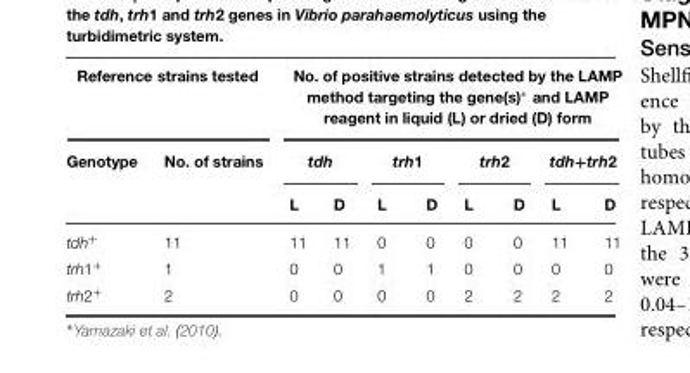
<table><thead><tr><td colspan="2">Reference strains tested</td><td colspan="8">No. of positive strains detected by the LAMP method targeting the gene(s)∗ and LAMP reagent in liquid (L) or dried (D) form</td></tr><tr><td rowspan="2">Genotype</td><td rowspan="2">No. of strains</td><td colspan="2">tdh</td><td colspan="2">trh1</td><td colspan="2">trh2</td><td colspan="2">tdh+trh2</td></tr><tr><td>L</td><td>D</td><td>L</td><td>D</td><td>L</td><td>D</td><td>L</td><td>D</td></tr></thead><tbody><tr><td>tdh<sup>+</sup></td><td>11</td><td>11</td><td>11</td><td>0</td><td>0</td><td>0</td><td>0</td><td>11</td><td>11</td></tr><tr><td>trh1<sup>+</sup></td><td>1</td><td>0</td><td>0</td><td>1</td><td>1</td><td>0</td><td>0</td><td>0</td><td>0</td></tr><tr><td>trh2<sup>+</sup></td><td>2</td><td>0</td><td>0</td><td>0</td><td>0</td><td>2</td><td>2</td><td>2</td><td>2</td></tr></tbody></table>